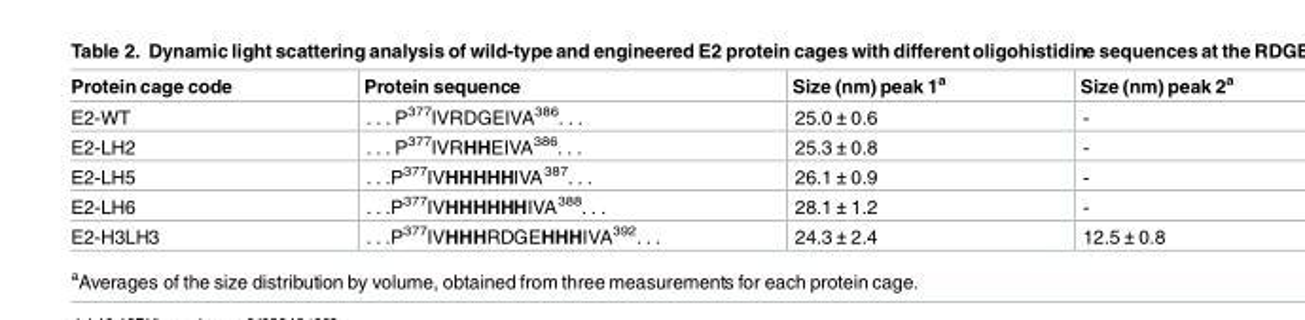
<table><thead><tr><td>Protein cage code</td><td>Protein sequence</td><td>Size (nm) peak 1<sup>a</sup></td><td>Size (nm) peak 2<sup>a</sup></td></tr></thead><tbody><tr><td>E2-WT</td><td>. . . P<sup>377</sup>IVRDGEIVA<sup>386</sup>. . .</td><td>25.0 ± 0.6</td><td>-</td></tr><tr><td>E2-LH2</td><td>. . . P<sup>377</sup>IVRHHEIVA<sup>386</sup>. . .</td><td>25.3 ± 0.8</td><td>-</td></tr><tr><td>E2-LH5</td><td>. . .P<sup>377</sup>IVHHHHHIVA<sup>387</sup>. . .</td><td>26.1 ± 0.9</td><td>-</td></tr><tr><td>E2-LH6</td><td>. . .P<sup>377</sup>IVHHHHHHIVA<sup>388</sup>. . .</td><td>28.1 ± 1.2</td><td>-</td></tr><tr><td>E2-H3LH3</td><td>. . .P<sup>377</sup>IVHHHRDGEHHHIVA<sup>392</sup>. . .</td><td>24.3 ± 2.4</td><td>12.5 ± 0.8</td></tr></tbody></table>